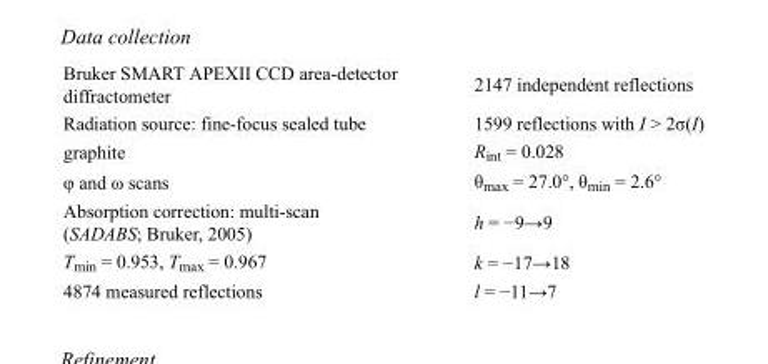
<table><tbody><tr><td>Bruker SMART APEXII CCD area-detector diffractometer</td><td>2147 independent reflections</td></tr><tr><td>Radiation source: fine-focus sealed tube</td><td>1599 reflections with I &gt; 2σ(I)</td></tr><tr><td>graphite</td><td>R<sub>int</sub> = 0.028</td></tr><tr><td>φ and ω scans</td><td>θ<sub>max</sub> = 27.0°, θ<sub>min</sub> = 2.6°</td></tr><tr><td>Absorption correction: multi-scan (SADABS; Bruker, 2005)</td><td>h = −9→9</td></tr><tr><td>T<sub>min</sub> = 0.953, T<sub>max</sub> = 0.967</td><td>k = −17→18</td></tr><tr><td>4874 measured reflections</td><td>l = −11→7</td></tr></tbody></table>